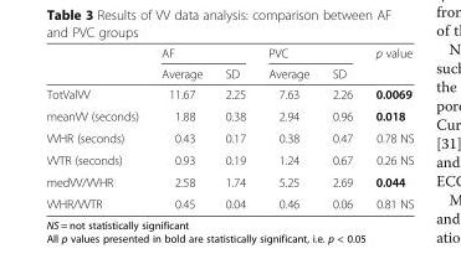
<table><thead><tr><td rowspan="2"></td><td colspan="2">AF</td><td colspan="2">PVC</td><td rowspan="2">p value</td></tr><tr><td>Average</td><td>SD</td><td>Average</td><td>SD</td></tr></thead><tbody><tr><td>TotValVV</td><td>11.67</td><td>2.25</td><td>7.63</td><td>2.26</td><td>0.0069</td></tr><tr><td>meanVV (seconds)</td><td>1.88</td><td>0.38</td><td>2.94</td><td>0.96</td><td>0.018</td></tr><tr><td>VVHR (seconds)</td><td>0.43</td><td>0.17</td><td>0.38</td><td>0.47</td><td>0.78 NS</td></tr><tr><td>VVTR (seconds)</td><td>0.93</td><td>0.19</td><td>1.24</td><td>0.67</td><td>0.26 NS</td></tr><tr><td>medVV/VVHR</td><td>2.58</td><td>1.74</td><td>5.25</td><td>2.69</td><td>0.044</td></tr><tr><td>VVHR/VVTR</td><td>0.45</td><td>0.04</td><td>0.46</td><td>0.06</td><td>0.81 NS</td></tr></tbody></table>